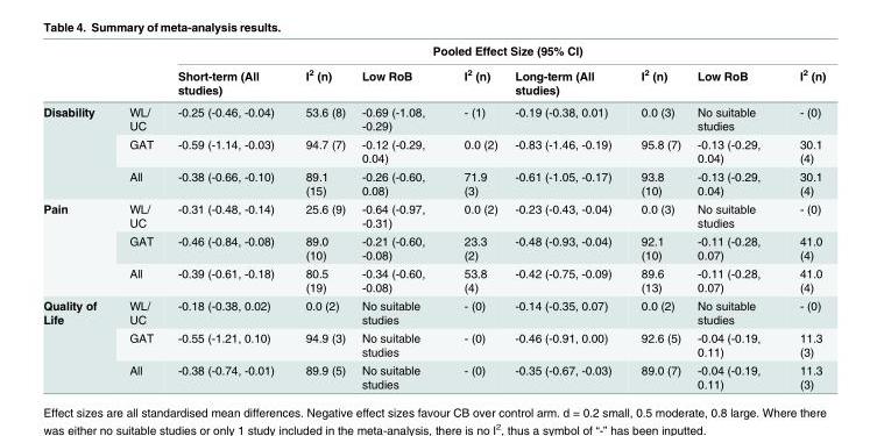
<table><thead><tr><td rowspan="2"></td><td rowspan="2"></td><td colspan="8">Pooled Effect Size (95% CI)</td></tr><tr><td>Short-term (All studies)</td><td>I<sup>2</sup> (n)</td><td>Low RoB</td><td>I<sup>2</sup> (n)</td><td>Long-term (All studies)</td><td>I<sup>2</sup> (n)</td><td>Low RoB</td><td>I<sup>2</sup> (n)</td></tr></thead><tbody><tr><td rowspan="3">Disability</td><td>WL/ UC</td><td>-0.25 (-0.46, -0.04)</td><td>53.6 (8)</td><td>-0.69 (-1.08, -0.29)</td><td>- (1)</td><td>-0.19 (-0.38, 0.01)</td><td>0.0 (3)</td><td>No suitable studies</td><td>- (0)</td></tr><tr><td>GAT</td><td>-0.59 (-1.14, -0.03)</td><td>94.7 (7)</td><td>-0.12 (-0.29, 0.04)</td><td>0.0 (2)</td><td>-0.83 (-1.46, -0.19)</td><td>95.8 (7)</td><td>-0.13 (-0.29, 0.04)</td><td>30.1 (4)</td></tr><tr><td>All</td><td>-0.38 (-0.66, -0.10)</td><td>89.1 (15)</td><td>-0.26 (-0.60, 0.08)</td><td>71.9 (3)</td><td>-0.61 (-1.05, -0.17)</td><td>93.8 (10)</td><td>-0.13 (-0.29, 0.04)</td><td>30.1 (4)</td></tr><tr><td rowspan="3">Pain</td><td>WL/ UC</td><td>-0.31 (-0.48, -0.14)</td><td>25.6 (9)</td><td>-0.64 (-0.97, -0.31)</td><td>0.0 (2)</td><td>-0.23 (-0.43, -0.04)</td><td>0.0 (3)</td><td>No suitable studies</td><td>- (0)</td></tr><tr><td>GAT</td><td>-0.46 (-0.84, -0.08)</td><td>89.0 (10)</td><td>-0.21 (-0.60, -0.08)</td><td>23.3 (2)</td><td>-0.48 (-0.93, -0.04)</td><td>92.1 (10)</td><td>-0.11 (-0.28, 0.07)</td><td>41.0 (4)</td></tr><tr><td>All</td><td>-0.39 (-0.61, -0.18)</td><td>80.5 (19)</td><td>-0.34 (-0.60, -0.08)</td><td>53.8 (4)</td><td>-0.42 (-0.75, -0.09)</td><td>89.6 (13)</td><td>-0.11 (-0.28, 0.07)</td><td>41.0 (4)</td></tr><tr><td rowspan="3">Quality of Life</td><td>WL/ UC</td><td>-0.18 (-0.38, 0.02)</td><td>0.0 (2)</td><td>No suitable studies</td><td>- (0)</td><td>-0.14 (-0.35, 0.07)</td><td>0.0 (2)</td><td>No suitable studies</td><td>- (0)</td></tr><tr><td>GAT</td><td>-0.55 (-1.21, 0.10)</td><td>94.9 (3)</td><td>No suitable studies</td><td>- (0)</td><td>-0.46 (-0.91, 0.00)</td><td>92.6 (5)</td><td>-0.04 (-0.19, 0.11)</td><td>11.3 (3)</td></tr><tr><td>All</td><td>-0.38 (-0.74, -0.01)</td><td>89.9 (5)</td><td>No suitable studies</td><td>- (0)</td><td>-0.35 (-0.67, -0.03)</td><td>89.0 (7)</td><td>-0.04 (-0.19, 0.11)</td><td>11.3 (3)</td></tr></tbody></table>